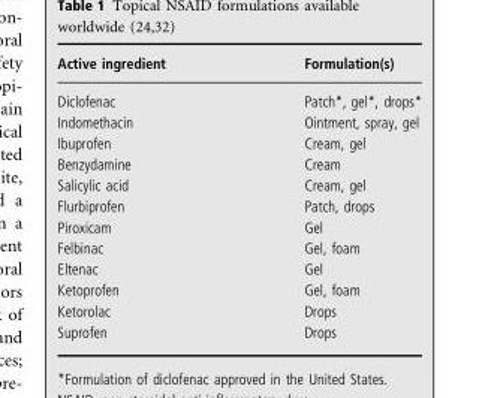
<table><thead><tr><td>Active ingredient</td><td>Formulation(s)</td></tr></thead><tbody><tr><td>Diclofenac</td><td>Patch*, gel*, drops*</td></tr><tr><td>Indomethacin</td><td>Ointment, spray, gel</td></tr><tr><td>Ibuprofen</td><td>Cream, gel</td></tr><tr><td>Benzydamine</td><td>Cream</td></tr><tr><td>Salicylic acid</td><td>Cream, gel</td></tr><tr><td>Flurbiprofen</td><td>Patch, drops</td></tr><tr><td>Piroxicam</td><td>Gel</td></tr><tr><td>Felbinac</td><td>Gel, foam</td></tr><tr><td>Eltenac</td><td>Gel</td></tr><tr><td>Ketoprofen</td><td>Gel, foam</td></tr><tr><td>Ketorolac</td><td>Drops</td></tr><tr><td>Suprofen</td><td>Drops</td></tr></tbody></table>